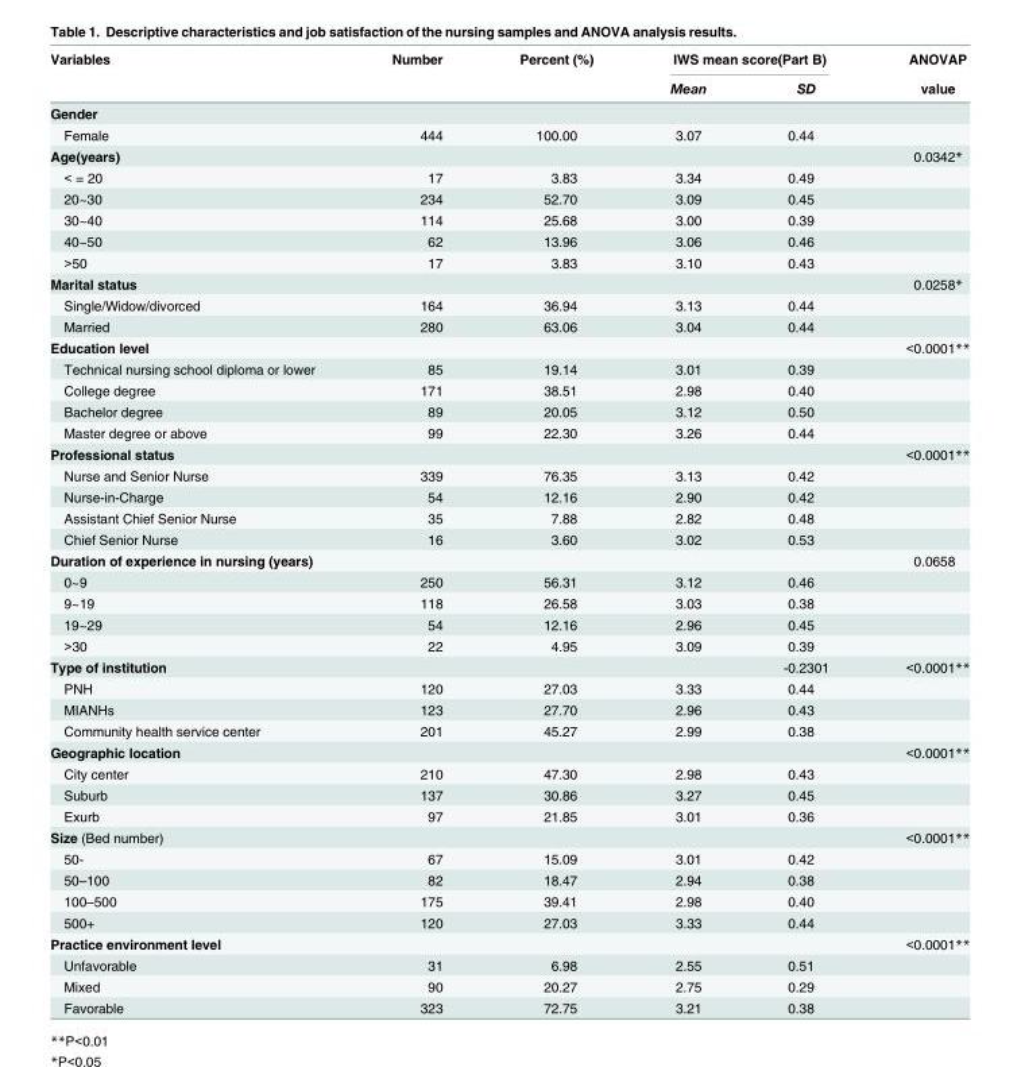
<table><thead><tr><td rowspan="2">Variables</td><td rowspan="2">Number</td><td rowspan="2">Percent (%)</td><td colspan="2">IWS mean score(Part B)</td><td rowspan="2">ANOVAP value</td></tr><tr><td>Mean</td><td>SD</td></tr></thead><tbody><tr><td colspan="6">Gender</td></tr><tr><td>Female</td><td>444</td><td>100.00</td><td>3.07</td><td>0.44</td><td></td></tr><tr><td>Age(years)</td><td></td><td></td><td></td><td></td><td>0.0342*</td></tr><tr><td>&lt; = 20</td><td>17</td><td>3.83</td><td>3.34</td><td>0.49</td><td></td></tr><tr><td>20~30</td><td>234</td><td>52.70</td><td>3.09</td><td>0.45</td><td></td></tr><tr><td>30~40</td><td>114</td><td>25.68</td><td>3.00</td><td>0.39</td><td></td></tr><tr><td>40~50</td><td>62</td><td>13.96</td><td>3.06</td><td>0.46</td><td></td></tr><tr><td>&gt;50</td><td>17</td><td>3.83</td><td>3.10</td><td>0.43</td><td></td></tr><tr><td>Marital status</td><td></td><td></td><td></td><td></td><td>0.0258*</td></tr><tr><td>Single/Widow/divorced</td><td>164</td><td>36.94</td><td>3.13</td><td>0.44</td><td></td></tr><tr><td>Married</td><td>280</td><td>63.06</td><td>3.04</td><td>0.44</td><td></td></tr><tr><td>Education level</td><td></td><td></td><td></td><td></td><td>&lt;0.0001**</td></tr><tr><td>Technical nursing school diploma or lower</td><td>85</td><td>19.14</td><td>3.01</td><td>0.39</td><td></td></tr><tr><td>College degree</td><td>171</td><td>38.51</td><td>2.98</td><td>0.40</td><td></td></tr><tr><td>Bachelor degree</td><td>89</td><td>20.05</td><td>3.12</td><td>0.50</td><td></td></tr><tr><td>Master degree or above</td><td>99</td><td>22.30</td><td>3.26</td><td>0.44</td><td></td></tr><tr><td>Professional status</td><td></td><td></td><td></td><td></td><td>&lt;0.0001**</td></tr><tr><td>Nurse and Senior Nurse</td><td>339</td><td>76.35</td><td>3.13</td><td>0.42</td><td></td></tr><tr><td>Nurse-in-Charge</td><td>54</td><td>12.16</td><td>2.90</td><td>0.42</td><td></td></tr><tr><td>Assistant Chief Senior Nurse</td><td>35</td><td>7.88</td><td>2.82</td><td>0.48</td><td></td></tr><tr><td>Chief Senior Nurse</td><td>16</td><td>3.60</td><td>3.02</td><td>0.53</td><td></td></tr><tr><td>Duration of experience in nursing (years)</td><td></td><td></td><td></td><td></td><td>0.0658</td></tr><tr><td>0~9</td><td>250</td><td>56.31</td><td>3.12</td><td>0.46</td><td></td></tr><tr><td>9~19</td><td>118</td><td>26.58</td><td>3.03</td><td>0.38</td><td></td></tr><tr><td>19~29</td><td>54</td><td>12.16</td><td>2.96</td><td>0.45</td><td></td></tr><tr><td>&gt;30</td><td>22</td><td>4.95</td><td>3.09</td><td>0.39</td><td></td></tr><tr><td>Type of institution</td><td></td><td></td><td></td><td>-0.2301</td><td>&lt;0.0001**</td></tr><tr><td>PNH</td><td>120</td><td>27.03</td><td>3.33</td><td>0.44</td><td></td></tr><tr><td>MIANHs</td><td>123</td><td>27.70</td><td>2.96</td><td>0.43</td><td></td></tr><tr><td>Community health service center</td><td>201</td><td>45.27</td><td>2.99</td><td>0.38</td><td></td></tr><tr><td>Geographic location</td><td></td><td></td><td></td><td></td><td>&lt;0.0001**</td></tr><tr><td>City center</td><td>210</td><td>47.30</td><td>2.98</td><td>0.43</td><td></td></tr><tr><td>Suburb</td><td>137</td><td>30.86</td><td>3.27</td><td>0.45</td><td></td></tr><tr><td>Exurb</td><td>97</td><td>21.85</td><td>3.01</td><td>0.36</td><td></td></tr><tr><td>Size (Bed number)</td><td></td><td></td><td></td><td></td><td>&lt;0.0001**</td></tr><tr><td>50-</td><td>67</td><td>15.09</td><td>3.01</td><td>0.42</td><td></td></tr><tr><td>50–100</td><td>82</td><td>18.47</td><td>2.94</td><td>0.38</td><td></td></tr><tr><td>100–500</td><td>175</td><td>39.41</td><td>2.98</td><td>0.40</td><td></td></tr><tr><td>500+</td><td>120</td><td>27.03</td><td>3.33</td><td>0.44</td><td></td></tr><tr><td>Practice environment level</td><td></td><td></td><td></td><td></td><td>&lt;0.0001**</td></tr><tr><td>Unfavorable</td><td>31</td><td>6.98</td><td>2.55</td><td>0.51</td><td></td></tr><tr><td>Mixed</td><td>90</td><td>20.27</td><td>2.75</td><td>0.29</td><td></td></tr><tr><td>Favorable</td><td>323</td><td>72.75</td><td>3.21</td><td>0.38</td><td></td></tr></tbody></table>